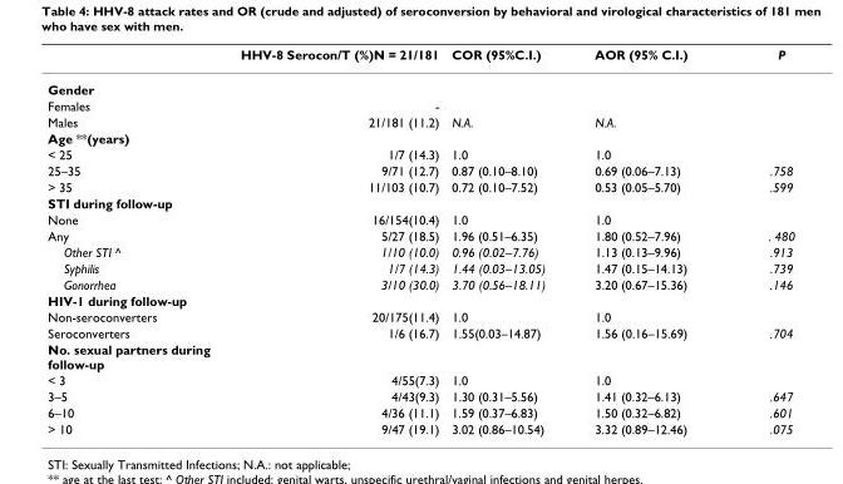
<table><thead><tr><td></td><td>HHV-8 Serocon/T (%)N = 21/181</td><td>COR (95%C.I.)</td><td>AOR (95% C.I.)</td><td>P</td></tr></thead><tbody><tr><td colspan="5">Gender</td></tr><tr><td>Females</td><td>-</td><td></td><td></td><td></td></tr><tr><td>Males</td><td>21/181 (11.2)</td><td>N.A.</td><td>N.A.</td><td></td></tr><tr><td colspan="5">Age **(years)</td></tr><tr><td>&lt; 25</td><td>1/7 (14.3)</td><td>1.0</td><td>1.0</td><td></td></tr><tr><td>25–35</td><td>9/71 (12.7)</td><td>0.87 (0.10–8.10)</td><td>0.69 (0.06–7.13)</td><td>.758</td></tr><tr><td>&gt; 35</td><td>11/103 (10.7)</td><td>0.72 (0.10–7.52)</td><td>0.53 (0.05–5.70)</td><td>.599</td></tr><tr><td colspan="5">STI during follow-up</td></tr><tr><td>None</td><td>16/154(10.4)</td><td>1.0</td><td>1.0</td><td></td></tr><tr><td>Any</td><td>5/27 (18.5)</td><td>1.96 (0.51–6.35)</td><td>1.80 (0.52–7.96)</td><td>. 480</td></tr><tr><td>Other STI ^</td><td>1/10 (10.0)</td><td>0.96 (0.02–7.76)</td><td>1.13 (0.13–9.96)</td><td>.913</td></tr><tr><td>Syphilis</td><td>1/7 (14.3)</td><td>1.44 (0.03–13.05)</td><td>1.47 (0.15–14.13)</td><td>.739</td></tr><tr><td>Gonorrhea</td><td>3/10 (30.0)</td><td>3.70 (0.56–18.11)</td><td>3.20 (0.67–15.36)</td><td>.146</td></tr><tr><td colspan="5">HIV-1 during follow-up</td></tr><tr><td>Non-seroconverters</td><td>20/175(11.4)</td><td>1.0</td><td>1.0</td><td></td></tr><tr><td>Seroconverters</td><td>1/6 (16.7)</td><td>1.55(0.03–14.87)</td><td>1.56 (0.16–15.69)</td><td>.704</td></tr><tr><td colspan="5">No. sexual partners during follow-up</td></tr><tr><td>&lt; 3</td><td>4/55(7.3)</td><td>1.0</td><td>1.0</td><td></td></tr><tr><td>3–5</td><td>4/43(9.3)</td><td>1.30 (0.31–5.56)</td><td>1.41 (0.32–6.13)</td><td>.647</td></tr><tr><td>6–10</td><td>4/36 (11.1)</td><td>1.59 (0.37–6.83)</td><td>1.50 (0.32–6.82)</td><td>.601</td></tr><tr><td>&gt; 10</td><td>9/47 (19.1)</td><td>3.02 (0.86–10.54)</td><td>3.32 (0.89–12.46)</td><td>.075</td></tr></tbody></table>